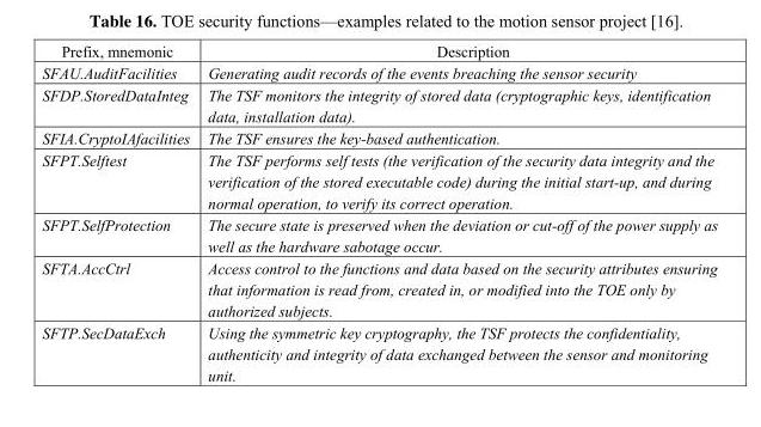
<table><thead><tr><td>Prefix, mnemonic</td><td>Description</td></tr></thead><tbody><tr><td>SFAU.AuditFacilities</td><td>Generating audit records of the events breaching the sensor security</td></tr><tr><td>SFDP.StoredDataInteg</td><td>The TSF monitors the integrity of stored data (cryptographic keys, identification data, installation data).</td></tr><tr><td>SFIA.CryptoIAfacilities</td><td>The TSF ensures the key-based authentication.</td></tr><tr><td>SFPT.Selftest</td><td>The TSF performs self tests (the verification of the security data integrity and the verification of the stored executable code) during the initial start-up, and during normal operation, to verify its correct operation.</td></tr><tr><td>SFPT.SelfProtection</td><td>The secure state is preserved when the deviation or cut-off of the power supply as well as the hardware sabotage occur.</td></tr><tr><td>SFTA.AccCtrl</td><td>Access control to the functions and data based on the security attributes ensuring that information is read from, created in, or modified into the TOE only by authorized subjects.</td></tr><tr><td>SFTP.SecDataExch</td><td>Using the symmetric key cryptography, the TSF protects the confidentiality, authenticity and integrity of data exchanged between the sensor and monitoring unit.</td></tr></tbody></table>